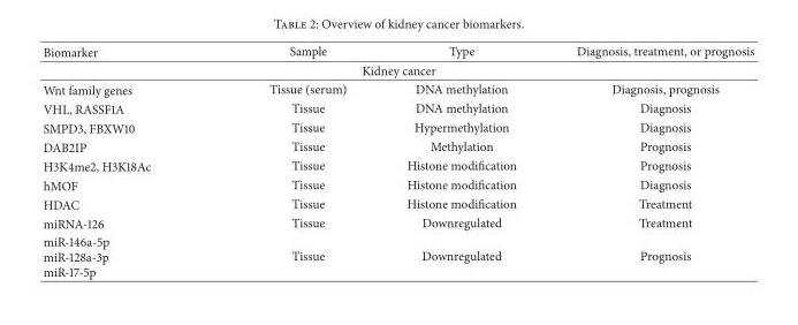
<table><thead><tr><td>Biomarker</td><td>Sample</td><td>Type</td><td>Diagnosis, treatment, or prognosis</td></tr></thead><tbody><tr><td colspan="4">Kidney cancer</td></tr><tr><td>Wnt family genes</td><td>Tissue (serum)</td><td>DNA methylation</td><td>Diagnosis, prognosis</td></tr><tr><td>VHL, RASSF1A</td><td>Tissue</td><td>DNA methylation</td><td>Diagnosis</td></tr><tr><td>SMPD3, FBXW10</td><td>Tissue</td><td>Hypermethylation</td><td>Diagnosis</td></tr><tr><td>DAB2IP</td><td>Tissue</td><td>Methylation</td><td>Prognosis</td></tr><tr><td>H3K4me2, H3K18Ac</td><td>Tissue</td><td>Histone modification</td><td>Prognosis</td></tr><tr><td>hMOF</td><td>Tissue</td><td>Histone modification</td><td>Diagnosis</td></tr><tr><td>HDAC</td><td>Tissue</td><td>Histone modification</td><td>Treatment</td></tr><tr><td>miRNA-126</td><td>Tissue</td><td>Downregulated</td><td>Treatment</td></tr><tr><td>miR-146a-5p miR-128a-3p miR-17-5p</td><td>Tissue</td><td>Downregulated</td><td>Prognosis</td></tr></tbody></table>